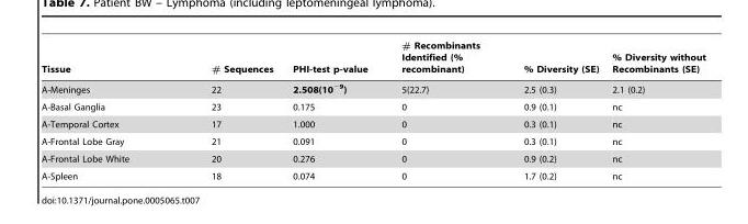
<table><thead><tr><td>Tissue</td><td># Sequences</td><td>PHI-test p-value</td><td># Recombinants Identified (% recombinant)</td><td>% Diversity (SE)</td><td>% Diversity without Recombinants (SE)</td></tr></thead><tbody><tr><td>A-Meninges</td><td>22</td><td>2.508(10<sup>−9</sup>)</td><td>5(22.7)</td><td>2.5 (0.3)</td><td>2.1 (0.2)</td></tr><tr><td>A-Basal Ganglia</td><td>23</td><td>0.175</td><td>0</td><td>0.9 (0.1)</td><td>nc</td></tr><tr><td>A-Temporal Cortex</td><td>17</td><td>1.000</td><td>0</td><td>0.3 (0.1)</td><td>nc</td></tr><tr><td>A-Frontal Lobe Gray</td><td>21</td><td>0.091</td><td>0</td><td>0.3 (0.1)</td><td>nc</td></tr><tr><td>A-Frontal Lobe White</td><td>20</td><td>0.276</td><td>0</td><td>0.9 (0.2)</td><td>nc</td></tr><tr><td>A-Spleen</td><td>18</td><td>0.074</td><td>0</td><td>1.7 (0.2)</td><td>nc</td></tr></tbody></table>